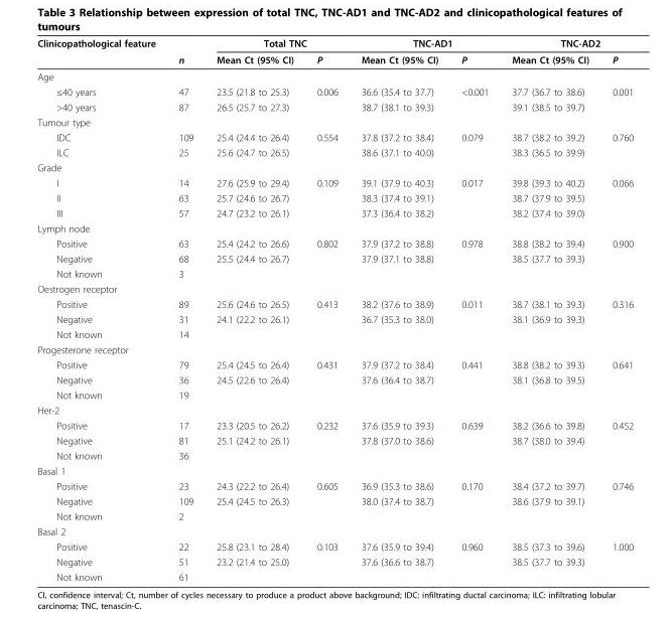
<table><thead><tr><td rowspan="2">Clinicopathological feature</td><td rowspan="2">n</td><td colspan="2">Total TNC</td><td colspan="2">TNC-AD1</td><td colspan="2">TNC-AD2</td></tr><tr><td>Mean Ct (95% CI)</td><td>P</td><td>Mean Ct (95% CI)</td><td>P</td><td>Mean Ct (95% CI)</td><td>P</td></tr></thead><tbody><tr><td colspan="8">Age</td></tr><tr><td>≤40 years</td><td>47</td><td>23.5 (21.8 to 25.3)</td><td>0.006</td><td>36.6 (35.4 to 37.7)</td><td>&lt;0.001</td><td>37.7 (36.7 to 38.6)</td><td>0.001</td></tr><tr><td>&gt;40 years</td><td>87</td><td>26.5 (25.7 to 27.3)</td><td></td><td>38.7 (38.1 to 39.3)</td><td></td><td>39.1 (38.5 to 39.7)</td><td></td></tr><tr><td colspan="8">Tumour type</td></tr><tr><td>IDC</td><td>109</td><td>25.4 (24.4 to 26.4)</td><td>0.554</td><td>37.8 (37.2 to 38.4)</td><td>0.079</td><td>38.7 (38.2 to 39.2)</td><td>0.760</td></tr><tr><td>ILC</td><td>25</td><td>25.6 (24.7 to 26.5)</td><td></td><td>38.6 (37.1 to 40.0)</td><td></td><td>38.3 (36.5 to 39.9)</td><td></td></tr><tr><td colspan="8">Grade</td></tr><tr><td>I</td><td>14</td><td>27.6 (25.9 to 29.4)</td><td>0.109</td><td>39.1 (37.9 to 40.3)</td><td>0.017</td><td>39.8 (39.3 to 40.2)</td><td>0.066</td></tr><tr><td>II</td><td>63</td><td>25.7 (24.6 to 26.7)</td><td></td><td>38.3 (37.4 to 39.1)</td><td></td><td>38.7 (37.9 to 39.5)</td><td></td></tr><tr><td>III</td><td>57</td><td>24.7 (23.2 to 26.1)</td><td></td><td>37.3 (36.4 to 38.2)</td><td></td><td>38.2 (37.4 to 39.0)</td><td></td></tr><tr><td colspan="8">Lymph node</td></tr><tr><td>Positive</td><td>63</td><td>25.4 (24.2 to 26.6)</td><td>0.802</td><td>37.9 (37.2 to 38.8)</td><td>0.978</td><td>38.8 (38.2 to 39.4)</td><td>0.900</td></tr><tr><td>Negative</td><td>68</td><td>25.5 (24.4 to 26.7)</td><td></td><td>37.9 (37.1 to 38.8)</td><td></td><td>38.5 (37.7 to 39.3)</td><td></td></tr><tr><td>Not known</td><td>3</td><td></td><td></td><td></td><td></td><td></td><td></td></tr><tr><td colspan="8">Oestrogen receptor</td></tr><tr><td>Positive</td><td>89</td><td>25.6 (24.6 to 26.5)</td><td>0.413</td><td>38.2 (37.6 to 38.9)</td><td>0.011</td><td>38.7 (38.1 to 39.3)</td><td>0.316</td></tr><tr><td>Negative</td><td>31</td><td>24.1 (22.2 to 26.1)</td><td></td><td>36.7 (35.3 to 38.0)</td><td></td><td>38.1 (36.9 to 39.3)</td><td></td></tr><tr><td>Not known</td><td>14</td><td></td><td></td><td></td><td></td><td></td><td></td></tr><tr><td colspan="8">Progesterone receptor</td></tr><tr><td>Positive</td><td>79</td><td>25.4 (24.5 to 26.4)</td><td>0.431</td><td>37.9 (37.2 to 38.4)</td><td>0.441</td><td>38.8 (38.2 to 39.3)</td><td>0.641</td></tr><tr><td>Negative</td><td>36</td><td>24.5 (22.6 to 26.4)</td><td></td><td>37.6 (36.4 to 38.7)</td><td></td><td>38.1 (36.8 to 39.5)</td><td></td></tr><tr><td>Not known</td><td>19</td><td></td><td></td><td></td><td></td><td></td><td></td></tr><tr><td colspan="8">Her-2</td></tr><tr><td>Positive</td><td>17</td><td>23.3 (20.5 to 26.2)</td><td>0.232</td><td>37.6 (35.9 to 39.3)</td><td>0.639</td><td>38.2 (36.6 to 39.8)</td><td>0.452</td></tr><tr><td>Negative</td><td>81</td><td>25.1 (24.2 to 26.1)</td><td></td><td>37.8 (37.0 to 38.6)</td><td></td><td>38.7 (38.0 to 39.4)</td><td></td></tr><tr><td>Not known</td><td>36</td><td></td><td></td><td></td><td></td><td></td><td></td></tr><tr><td colspan="8">Basal 1</td></tr><tr><td>Positive</td><td>23</td><td>24.3 (22.2 to 26.4)</td><td>0.605</td><td>36.9 (35.3 to 38.6)</td><td>0.170</td><td>38.4 (37.2 to 39.7)</td><td>0.746</td></tr><tr><td>Negative</td><td>109</td><td>25.4 (24.5 to 26.3)</td><td></td><td>38.0 (37.4 to 38.7)</td><td></td><td>38.6 (37.9 to 39.1)</td><td></td></tr><tr><td>Not known</td><td>2</td><td></td><td></td><td></td><td></td><td></td><td></td></tr><tr><td colspan="8">Basal 2</td></tr><tr><td>Positive</td><td>22</td><td>25.8 (23.1 to 28.4)</td><td>0.103</td><td>37.6 (35.9 to 39.4)</td><td>0.960</td><td>38.5 (37.3 to 39.6)</td><td>1.000</td></tr><tr><td>Negative</td><td>51</td><td>23.2 (21.4 to 25.0)</td><td></td><td>37.6 (36.6 to 38.7)</td><td></td><td>38.5 (37.7 to 39.3)</td><td></td></tr><tr><td>Not known</td><td>61</td><td></td><td></td><td></td><td></td><td></td><td></td></tr></tbody></table>